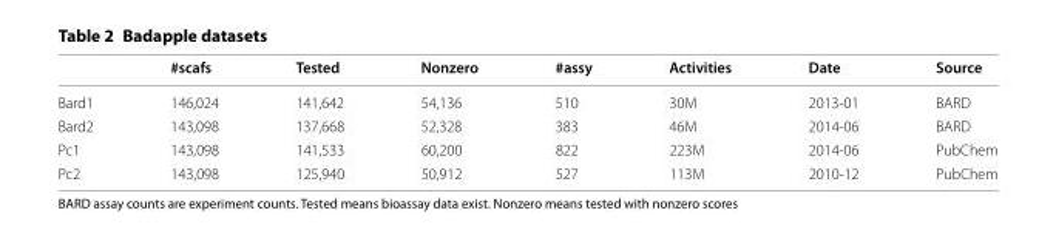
<table><thead><tr><td></td><td>#scafs</td><td>Tested</td><td>Nonzero</td><td>#assy</td><td>Activities</td><td>Date</td><td>Source</td></tr></thead><tbody><tr><td>Bard1</td><td>146,024</td><td>141,642</td><td>54,136</td><td>510</td><td>30M</td><td>2013-01</td><td>BARD</td></tr><tr><td>Bard2</td><td>143,098</td><td>137,668</td><td>52,328</td><td>383</td><td>46M</td><td>2014-06</td><td>BARD</td></tr><tr><td>Pc1</td><td>143,098</td><td>141,533</td><td>60,200</td><td>822</td><td>223M</td><td>2014-06</td><td>PubChem</td></tr><tr><td>Pc2</td><td>143,098</td><td>125,940</td><td>50,912</td><td>527</td><td>113M</td><td>2010-12</td><td>PubChem</td></tr></tbody></table>